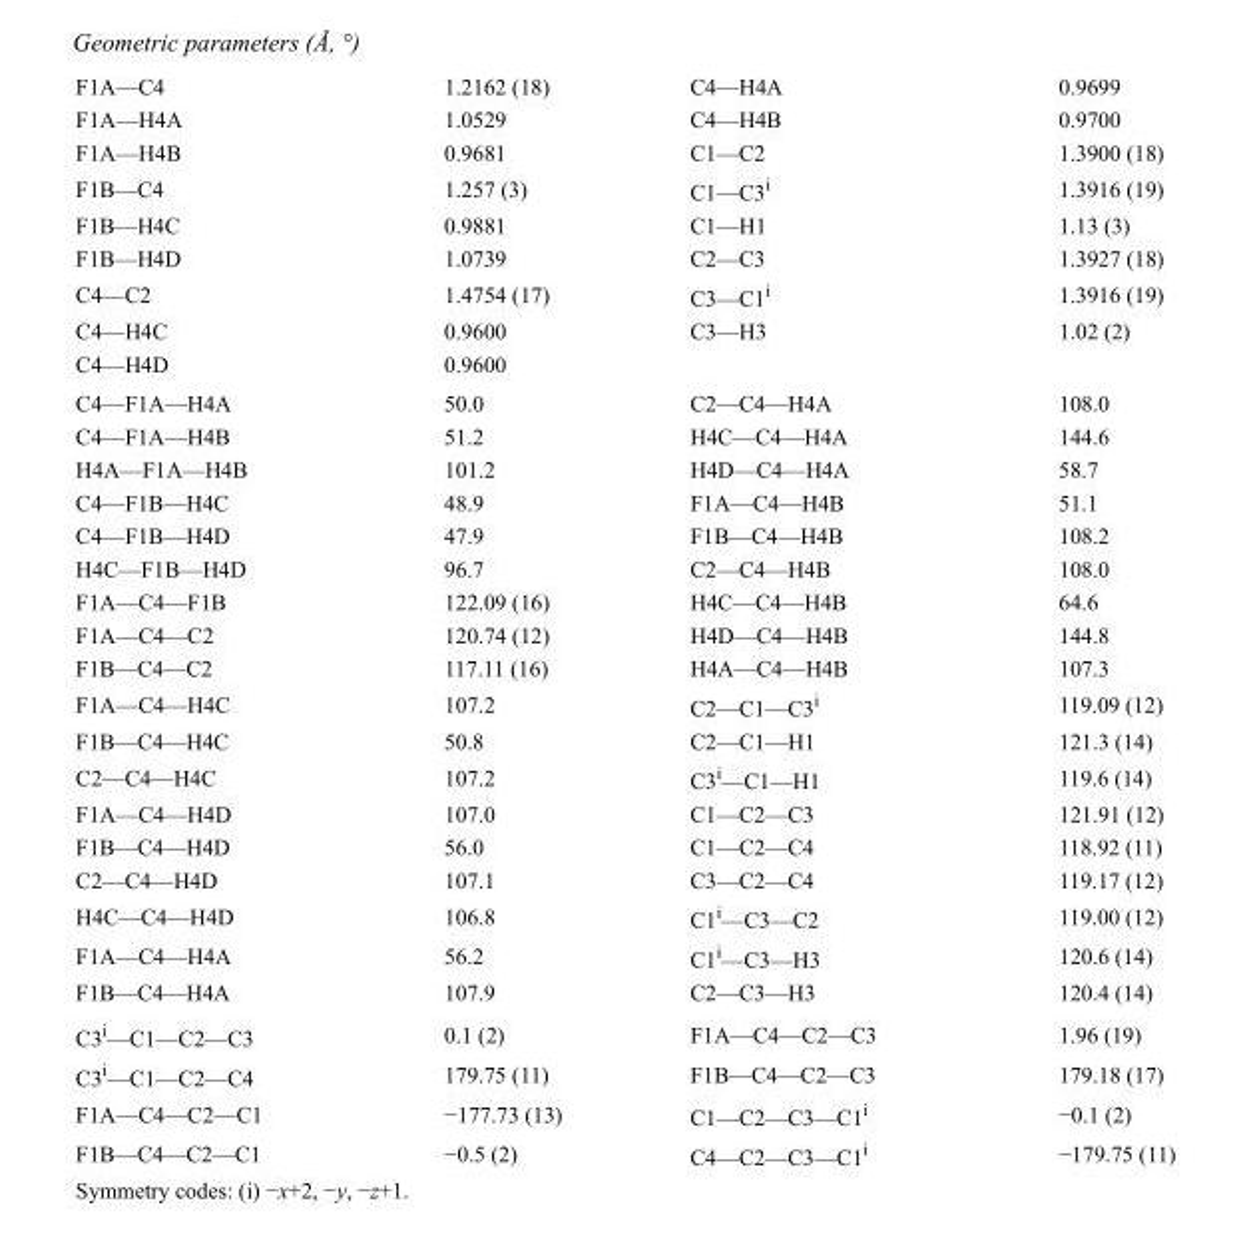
<table><tbody><tr><td>F1A—C4</td><td>1.2162 (18)</td><td>C4—H4A</td><td>0.9699</td></tr><tr><td>F1A—H4A</td><td>1.0529</td><td>C4—H4B</td><td>0.9700</td></tr><tr><td>F1A—H4B</td><td>0.9681</td><td>C1—C2</td><td>1.3900 (18)</td></tr><tr><td>F1B—C4</td><td>1.257 (3)</td><td>C1—C3<sup>i</sup></td><td>1.3916 (19)</td></tr><tr><td>F1B—H4C</td><td>0.9881</td><td>C1—H1</td><td>1.13 (3)</td></tr><tr><td>F1B—H4D</td><td>1.0739</td><td>C2—C3</td><td>1.3927 (18)</td></tr><tr><td>C4—C2</td><td>1.4754 (17)</td><td>C3—C1<sup>i</sup></td><td>1.3916 (19)</td></tr><tr><td>C4—H4C</td><td>0.9600</td><td>C3—H3</td><td>1.02 (2)</td></tr><tr><td>C4—H4D</td><td>0.9600</td><td></td><td></td></tr><tr><td>C4—F1A—H4A</td><td>50.0</td><td>C2—C4—H4A</td><td>108.0</td></tr><tr><td>C4—F1A—H4B</td><td>51.2</td><td>H4C—C4—H4A</td><td>144.6</td></tr><tr><td>H4A—F1A—H4B</td><td>101.2</td><td>H4D—C4—H4A</td><td>58.7</td></tr><tr><td>C4—F1B—H4C</td><td>48.9</td><td>F1A—C4—H4B</td><td>51.1</td></tr><tr><td>C4—F1B—H4D</td><td>47.9</td><td>F1B—C4—H4B</td><td>108.2</td></tr><tr><td>H4C—F1B—H4D</td><td>96.7</td><td>C2—C4—H4B</td><td>108.0</td></tr><tr><td>F1A—C4—F1B</td><td>122.09 (16)</td><td>H4C—C4—H4B</td><td>64.6</td></tr><tr><td>F1A—C4—C2</td><td>120.74 (12)</td><td>H4D—C4—H4B</td><td>144.8</td></tr><tr><td>F1B—C4—C2</td><td>117.11 (16)</td><td>H4A—C4—H4B</td><td>107.3</td></tr><tr><td>F1A—C4—H4C</td><td>107.2</td><td>C2—C1—C3<sup>i</sup></td><td>119.09 (12)</td></tr><tr><td>F1B—C4—H4C</td><td>50.8</td><td>C2—C1—H1</td><td>121.3 (14)</td></tr><tr><td>C2—C4—H4C</td><td>107.2</td><td>C3<sup>i</sup>—C1—H1</td><td>119.6 (14)</td></tr><tr><td>F1A—C4—H4D</td><td>107.0</td><td>C1—C2—C3</td><td>121.91 (12)</td></tr><tr><td>F1B—C4—H4D</td><td>56.0</td><td>C1—C2—C4</td><td>118.92 (11)</td></tr><tr><td>C2—C4—H4D</td><td>107.1</td><td>C3—C2—C4</td><td>119.17 (12)</td></tr><tr><td>H4C—C4—H4D</td><td>106.8</td><td>C1<sup>i</sup>—C3—C2</td><td>119.00 (12)</td></tr><tr><td>F1A—C4—H4A</td><td>56.2</td><td>C1<sup>i</sup>—C3—H3</td><td>120.6 (14)</td></tr><tr><td>F1B—C4—H4A</td><td>107.9</td><td>C2—C3—H3</td><td>120.4 (14)</td></tr><tr><td>C3<sup>i</sup>—C1—C2—C3</td><td>0.1 (2)</td><td>F1A—C4—C2—C3</td><td>1.96 (19)</td></tr><tr><td>C3<sup>i</sup>—C1—C2—C4</td><td>179.75 (11)</td><td>F1B—C4—C2—C3</td><td>179.18 (17)</td></tr><tr><td>F1A—C4—C2—C1</td><td>−177.73 (13)</td><td>C1—C2—C3—C1<sup>i</sup></td><td>−0.1 (2)</td></tr><tr><td>F1B—C4—C2—C1</td><td>−0.5 (2)</td><td>C4—C2—C3—C1<sup>i</sup></td><td>−179.75 (11)</td></tr></tbody></table>